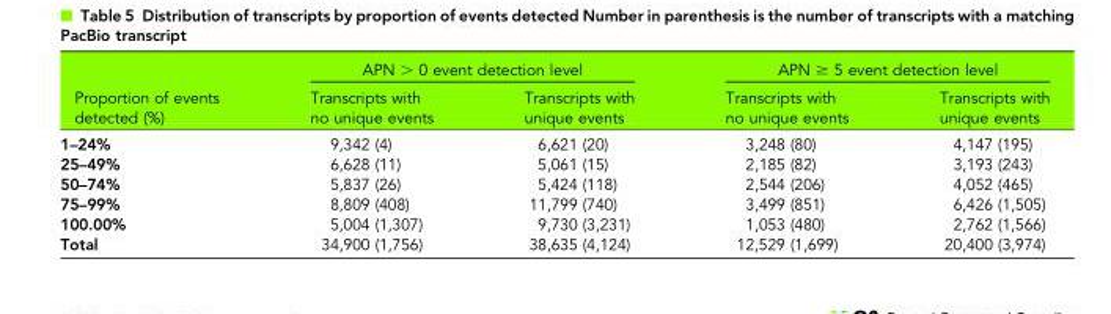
<table><thead><tr><td rowspan="2">Proportion of events detected (%)</td><td colspan="2">APN &gt; 0 event detection level</td><td colspan="2">APN ≥ 5 event detection level</td></tr><tr><td>Transcripts with no unique events</td><td>Transcripts with unique events</td><td>Transcripts with no unique events</td><td>Transcripts with unique events</td></tr></thead><tbody><tr><td>1–24%</td><td>9,342 (4)</td><td>6,621 (20)</td><td>3,248 (80)</td><td>4,147 (195)</td></tr><tr><td>25–49%</td><td>6,628 (11)</td><td>5,061 (15)</td><td>2,185 (82)</td><td>3,193 (243)</td></tr><tr><td>50–74%</td><td>5,837 (26)</td><td>5,424 (118)</td><td>2,544 (206)</td><td>4,052 (465)</td></tr><tr><td>75–99%</td><td>8,809 (408)</td><td>11,799 (740)</td><td>3,499 (851)</td><td>6,426 (1,505)</td></tr><tr><td>100.00%</td><td>5,004 (1,307)</td><td>9,730 (3,231)</td><td>1,053 (480)</td><td>2,762 (1,566)</td></tr><tr><td>Total</td><td>34,900 (1,756)</td><td>38,635 (4,124)</td><td>12,529 (1,699)</td><td>20,400 (3,974)</td></tr></tbody></table>